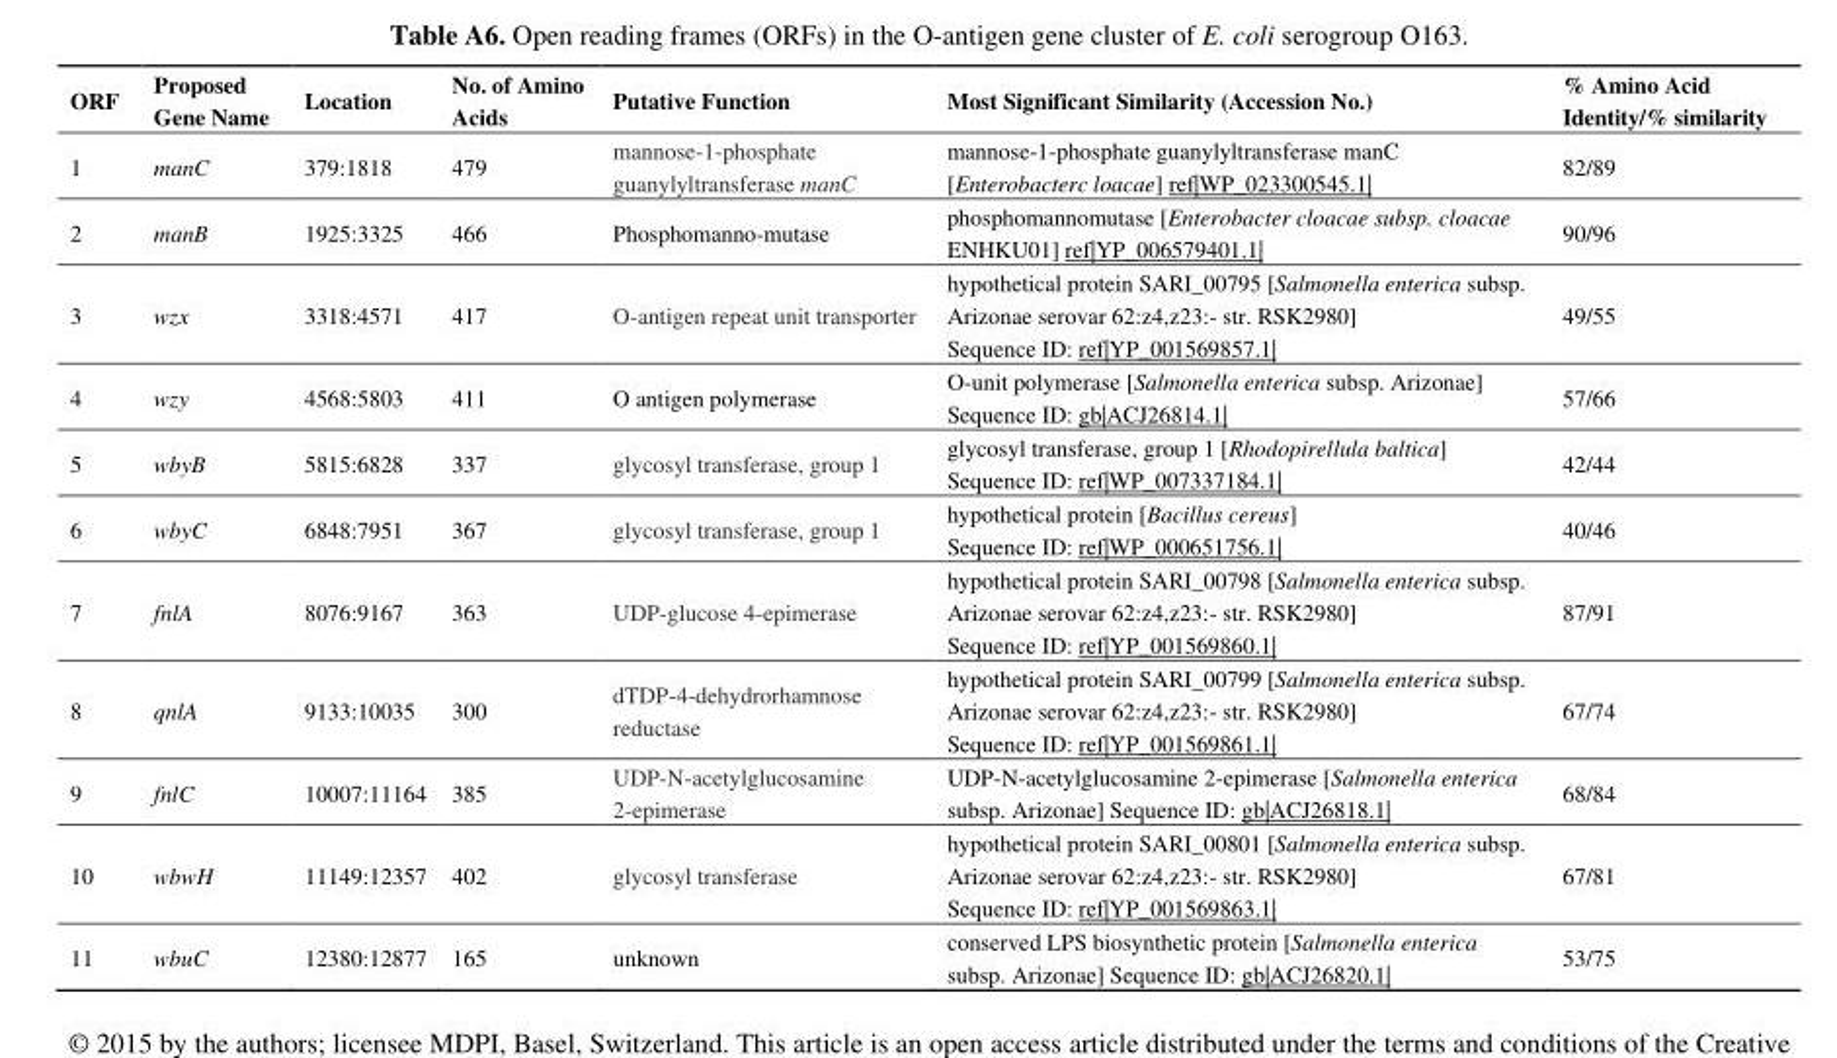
<table><thead><tr><td>ORF</td><td>Proposed Gene Name</td><td>Location</td><td>No. of Amino Acids</td><td>Putative Function</td><td>Most Significant Similarity (Accession No.)</td><td>% Amino Acid Identity/% similarity</td></tr></thead><tbody><tr><td>1</td><td>manC</td><td>379:1818</td><td>479</td><td>mannose-1-phosphate guanylyltransferase manC</td><td>mannose-1-phosphate guanylyltransferase manC [Enterobacterc loacae] ref|WP_023300545.1|</td><td>82/89</td></tr><tr><td>2</td><td>manB</td><td>1925:3325</td><td>466</td><td>Phosphomanno-mutase</td><td>phosphomannomutase [Enterobacter cloacae subsp. cloacae ENHKU01] ref|YP_006579401.1|</td><td>90/96</td></tr><tr><td>3</td><td>wzx</td><td>3318:4571</td><td>417</td><td>O-antigen repeat unit transporter</td><td>hypothetical protein SARI_00795 [Salmonella enterica subsp. Arizonae serovar 62:z4,z23:- str. RSK2980] Sequence ID: ref|YP_001569857.1|</td><td>49/55</td></tr><tr><td>4</td><td>wzy</td><td>4568:5803</td><td>411</td><td>O antigen polymerase</td><td>O-unit polymerase [Salmonella enterica subsp. Arizonae] Sequence ID: gb|ACJ26814.1|</td><td>57/66</td></tr><tr><td>5</td><td>wbyB</td><td>5815:6828</td><td>337</td><td>glycosyl transferase, group 1</td><td>glycosyl transferase, group 1 [Rhodopirellula baltica] Sequence ID: ref|WP_007337184.1|</td><td>42/44</td></tr><tr><td>6</td><td>wbyC</td><td>6848:7951</td><td>367</td><td>glycosyl transferase, group 1</td><td>hypothetical protein [Bacillus cereus] Sequence ID: ref|WP_000651756.1|</td><td>40/46</td></tr><tr><td>7</td><td>fnlA</td><td>8076:9167</td><td>363</td><td>UDP-glucose 4-epimerase</td><td>hypothetical protein SARI_00798 [Salmonella enterica subsp. Arizonae serovar 62:z4,z23:- str. RSK2980] Sequence ID: ref|YP_001569860.1|</td><td>87/91</td></tr><tr><td>8</td><td>qnlA</td><td>9133:10035</td><td>300</td><td>dTDP-4-dehydrorhamnose reductase</td><td>hypothetical protein SARI_00799 [Salmonella enterica subsp. Arizonae serovar 62:z4,z23:- str. RSK2980] Sequence ID: ref|YP_001569861.1|</td><td>67/74</td></tr><tr><td>9</td><td>fnlC</td><td>10007:11164</td><td>385</td><td>UDP-N-acetylglucosamine 2-epimerase</td><td>UDP-N-acetylglucosamine 2-epimerase [Salmonella enterica subsp. Arizonae] Sequence ID: gb|ACJ26818.1|</td><td>68/84</td></tr><tr><td>10</td><td>wbwH</td><td>11149:12357</td><td>402</td><td>glycosyl transferase</td><td>hypothetical protein SARI_00801 [Salmonella enterica subsp. Arizonae serovar 62:z4,z23:- str. RSK2980] Sequence ID: ref|YP_001569863.1|</td><td>67/81</td></tr><tr><td>11</td><td>wbuC</td><td>12380:12877</td><td>165</td><td>unknown</td><td>conserved LPS biosynthetic protein [Salmonella enterica subsp. Arizonae] Sequence ID: gb|ACJ26820.1|</td><td>53/75</td></tr></tbody></table>